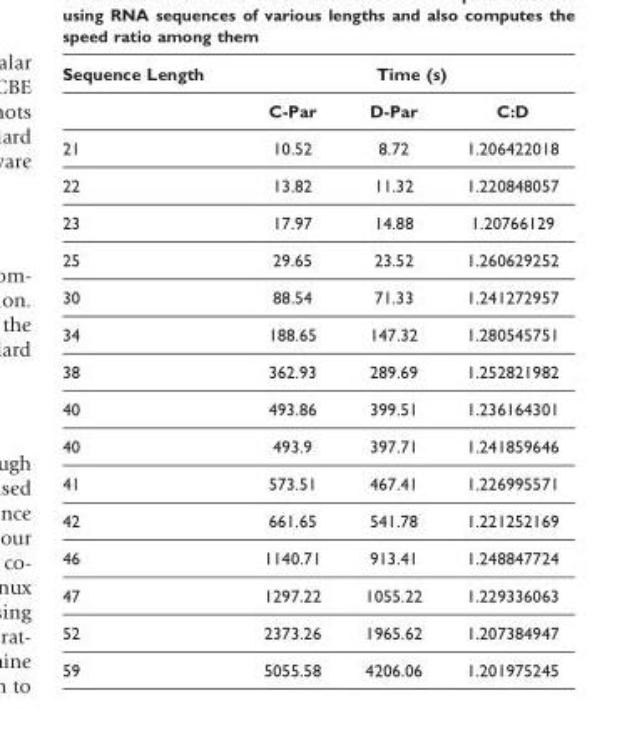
<table><thead><tr><td rowspan="2">Sequence Length</td><td colspan="3">Time (s)</td></tr><tr><td>C-Par</td><td>D-Par</td><td>C:D</td></tr></thead><tbody><tr><td>21</td><td>10.52</td><td>8.72</td><td>1.206422018</td></tr><tr><td>22</td><td>13.82</td><td>11.32</td><td>1.220848057</td></tr><tr><td>23</td><td>17.97</td><td>14.88</td><td>1.20766129</td></tr><tr><td>25</td><td>29.65</td><td>23.52</td><td>1.260629252</td></tr><tr><td>30</td><td>88.54</td><td>71.33</td><td>1.241272957</td></tr><tr><td>34</td><td>188.65</td><td>147.32</td><td>1.280545751</td></tr><tr><td>38</td><td>362.93</td><td>289.69</td><td>1.252821982</td></tr><tr><td>40</td><td>493.86</td><td>399.51</td><td>1.236164301</td></tr><tr><td>40</td><td>493.9</td><td>397.71</td><td>1.241859646</td></tr><tr><td>41</td><td>573.51</td><td>467.41</td><td>1.226995571</td></tr><tr><td>42</td><td>661.65</td><td>541.78</td><td>1.221252169</td></tr><tr><td>46</td><td>1140.71</td><td>913.41</td><td>1.248847724</td></tr><tr><td>47</td><td>1297.22</td><td>1055.22</td><td>1.229336063</td></tr><tr><td>52</td><td>2373.26</td><td>1965.62</td><td>1.207384947</td></tr><tr><td>59</td><td>5055.58</td><td>4206.06</td><td>1.201975245</td></tr></tbody></table>